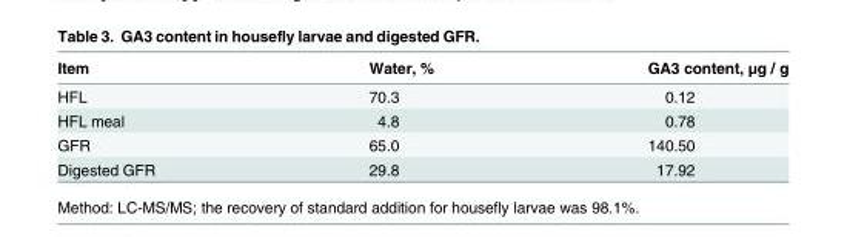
<table><thead><tr><td>Item</td><td>Water, %</td><td>GA3 content, μg / g</td></tr></thead><tbody><tr><td>HFL</td><td>70.3</td><td>0.12</td></tr><tr><td>HFL meal</td><td>4.8</td><td>0.78</td></tr><tr><td>GFR</td><td>65.0</td><td>140.50</td></tr><tr><td>Digested GFR</td><td>29.8</td><td>17.92</td></tr></tbody></table>